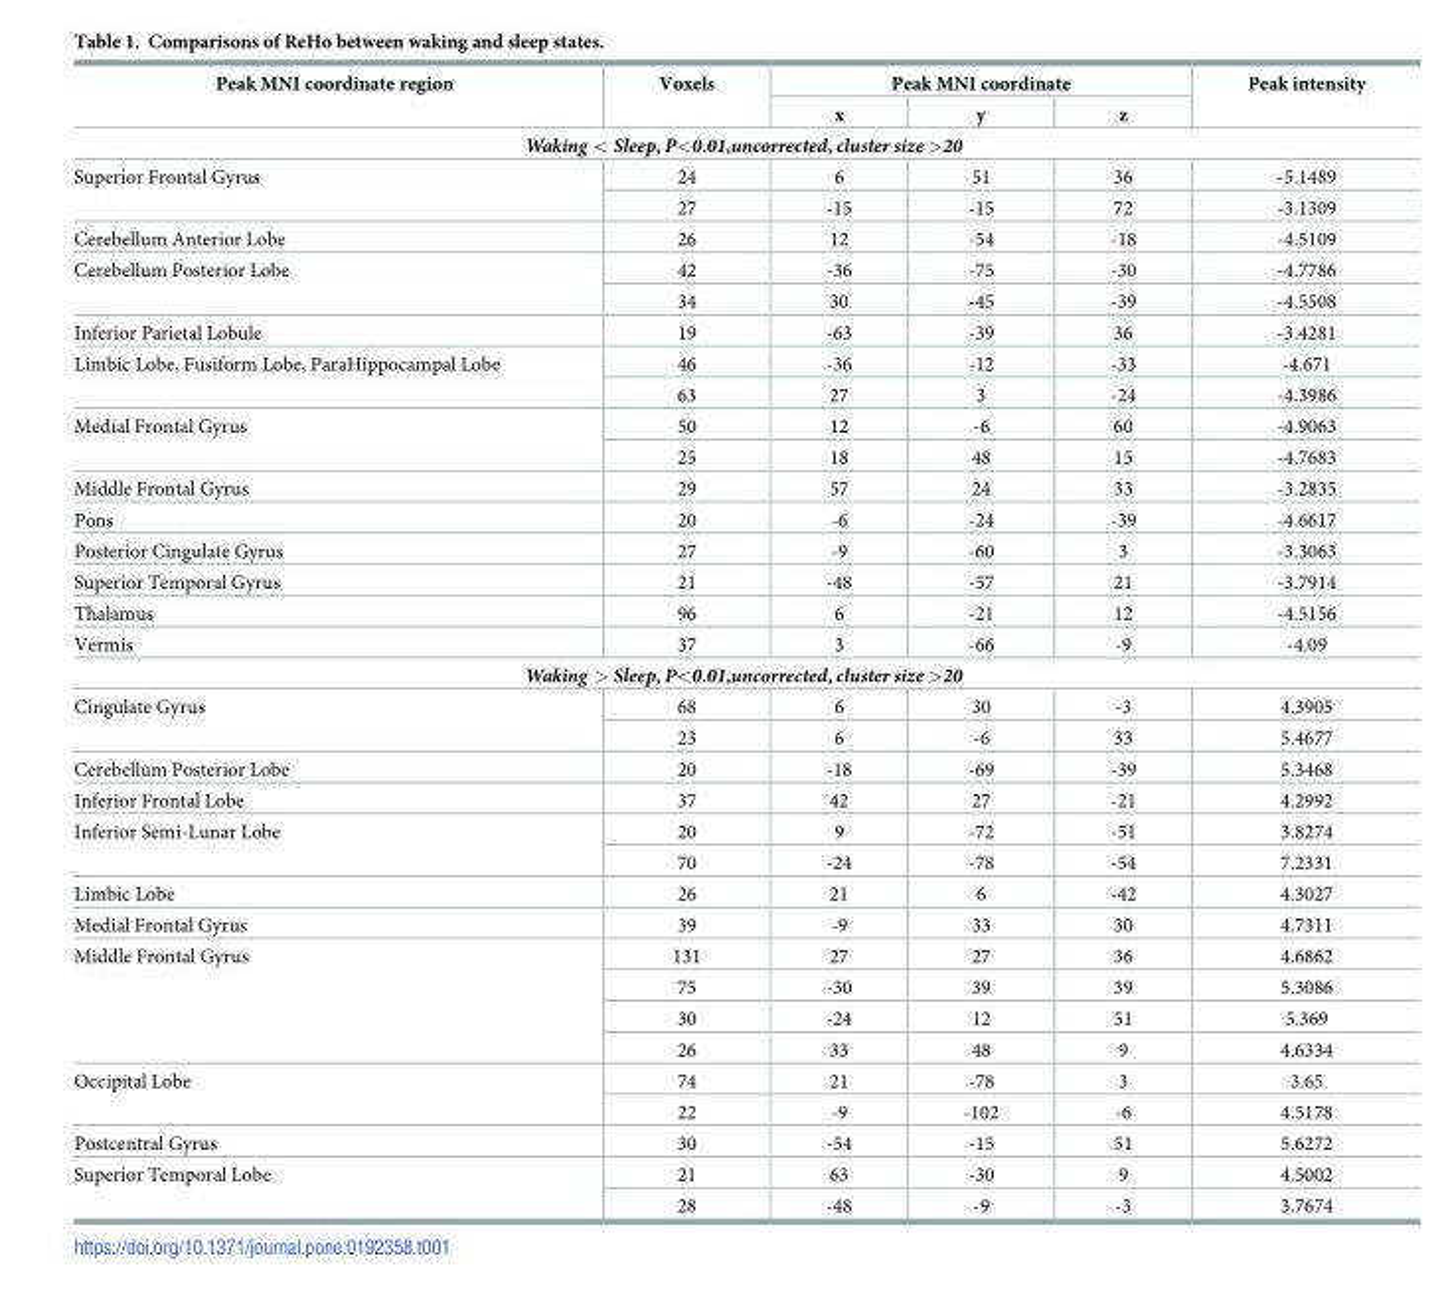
<table><thead><tr><td rowspan="2">Peak MNI coordinate region</td><td rowspan="2">Voxels</td><td colspan="3">Peak MNI coordinate</td><td rowspan="2">Peak intensity</td></tr><tr><td>x</td><td>y</td><td>z</td></tr></thead><tbody><tr><td colspan="6">Waking &lt; Sleep, P&lt;0.01,uncorrected, cluster size &gt;20</td></tr><tr><td rowspan="2">Superior Frontal Gyrus</td><td>24</td><td>6</td><td>51</td><td>36</td><td>-5.1489</td></tr><tr><td>27</td><td>-15</td><td>-15</td><td>72</td><td>-3.1309</td></tr><tr><td>Cerebellum Anterior Lobe</td><td>26</td><td>12</td><td>-54</td><td>-18</td><td>-4.5109</td></tr><tr><td rowspan="2">Cerebellum Posterior Lobe</td><td>42</td><td>-36</td><td>-75</td><td>-30</td><td>-4.7786</td></tr><tr><td>34</td><td>30</td><td>-45</td><td>-39</td><td>-4.5508</td></tr><tr><td>Inferior Parietal Lobule</td><td>19</td><td>-63</td><td>-39</td><td>36</td><td>-3.4281</td></tr><tr><td rowspan="2">Limbic Lobe, Fusiform Lobe, ParaHippocampal Lobe</td><td>46</td><td>-36</td><td>-12</td><td>-33</td><td>-4.671</td></tr><tr><td>63</td><td>27</td><td>3</td><td>-24</td><td>-4.3986</td></tr><tr><td rowspan="2">Medial Frontal Gyrus</td><td>50</td><td>12</td><td>-6</td><td>60</td><td>-4.9063</td></tr><tr><td>25</td><td>18</td><td>48</td><td>15</td><td>-4.7683</td></tr><tr><td>Middle Frontal Gyrus</td><td>29</td><td>57</td><td>24</td><td>33</td><td>-3.2835</td></tr><tr><td>Pons</td><td>20</td><td>-6</td><td>-24</td><td>-39</td><td>-4.6617</td></tr><tr><td>Posterior Cingulate Gyrus</td><td>27</td><td>-9</td><td>-60</td><td>3</td><td>-3.3063</td></tr><tr><td>Superior Temporal Gyrus</td><td>21</td><td>-48</td><td>-57</td><td>21</td><td>-3.7914</td></tr><tr><td>Thalamus</td><td>96</td><td>6</td><td>-21</td><td>12</td><td>-4.5156</td></tr><tr><td>Vermis</td><td>37</td><td>3</td><td>-66</td><td>-9</td><td>-4.09</td></tr><tr><td colspan="6">Waking &gt; Sleep, P&lt;0.01,uncorrected, cluster size &gt;20</td></tr><tr><td rowspan="2">Cingulate Gyrus</td><td>68</td><td>6</td><td>30</td><td>-3</td><td>4.3905</td></tr><tr><td>23</td><td>6</td><td>-6</td><td>33</td><td>5.4677</td></tr><tr><td>Cerebellum Posterior Lobe</td><td>20</td><td>-18</td><td>-69</td><td>-39</td><td>5.3468</td></tr><tr><td>Inferior Frontal Lobe</td><td>37</td><td>42</td><td>27</td><td>-21</td><td>4.2992</td></tr><tr><td rowspan="2">Inferior Semi-Lunar Lobe</td><td>20</td><td>9</td><td>-72</td><td>-51</td><td>3.8274</td></tr><tr><td>70</td><td>-24</td><td>-78</td><td>-54</td><td>7.2331</td></tr><tr><td>Limbic Lobe</td><td>26</td><td>21</td><td>6</td><td>-42</td><td>4.3027</td></tr><tr><td>Medial Frontal Gyrus</td><td>39</td><td>-9</td><td>33</td><td>30</td><td>4.7311</td></tr><tr><td rowspan="4">Middle Frontal Gyrus</td><td>131</td><td>27</td><td>27</td><td>36</td><td>4.6862</td></tr><tr><td>75</td><td>-30</td><td>39</td><td>39</td><td>5.3086</td></tr><tr><td>30</td><td>-24</td><td>12</td><td>51</td><td>5.369</td></tr><tr><td>26</td><td>33</td><td>48</td><td>9</td><td>4.6334</td></tr><tr><td rowspan="2">Occipital Lobe</td><td>74</td><td>21</td><td>-78</td><td>3</td><td>3.65</td></tr><tr><td>22</td><td>-9</td><td>-102</td><td>-6</td><td>4.5178</td></tr><tr><td>Postcentral Gyrus</td><td>30</td><td>-54</td><td>-15</td><td>51</td><td>5.6272</td></tr><tr><td rowspan="2">Superior Temporal Lobe</td><td>21</td><td>63</td><td>-30</td><td>9</td><td>4.5002</td></tr><tr><td>28</td><td>-48</td><td>-9</td><td>-3</td><td>3.7674</td></tr></tbody></table>